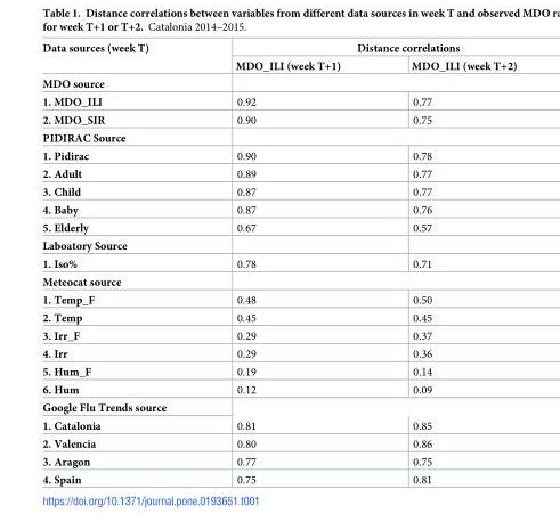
<table><thead><tr><td rowspan="2">Data sources (week T)</td><td colspan="2">Distance correlations</td></tr><tr><td>MDO_ILI (week T+1)</td><td>MDO_ILI (week T+2)</td></tr></thead><tbody><tr><td colspan="3">MDO source</td></tr><tr><td>1. MDO_ILI</td><td>0.92</td><td>0.77</td></tr><tr><td>2. MDO_SIR</td><td>0.90</td><td>0.75</td></tr><tr><td colspan="3">PIDIRAC Source</td></tr><tr><td>1. Pidirac</td><td>0.90</td><td>0.78</td></tr><tr><td>2. Adult</td><td>0.89</td><td>0.77</td></tr><tr><td>3. Child</td><td>0.87</td><td>0.77</td></tr><tr><td>4. Baby</td><td>0.87</td><td>0.76</td></tr><tr><td>5. Elderly</td><td>0.67</td><td>0.57</td></tr><tr><td colspan="3">Laboatory Source</td></tr><tr><td>1. Iso%</td><td>0.78</td><td>0.71</td></tr><tr><td colspan="3">Meteocat source</td></tr><tr><td>1. Temp_F</td><td>0.48</td><td>0.50</td></tr><tr><td>2. Temp</td><td>0.45</td><td>0.45</td></tr><tr><td>3. Irr_F</td><td>0.29</td><td>0.37</td></tr><tr><td>4. Irr</td><td>0.29</td><td>0.36</td></tr><tr><td>5. Hum_F</td><td>0.19</td><td>0.14</td></tr><tr><td>6. Hum</td><td>0.12</td><td>0.09</td></tr><tr><td colspan="3">Google Flu Trends source</td></tr><tr><td>1. Catalonia</td><td>0.81</td><td>0.85</td></tr><tr><td>2. Valencia</td><td>0.80</td><td>0.86</td></tr><tr><td>3. Aragon</td><td>0.77</td><td>0.75</td></tr><tr><td>4. Spain</td><td>0.75</td><td>0.81</td></tr></tbody></table>